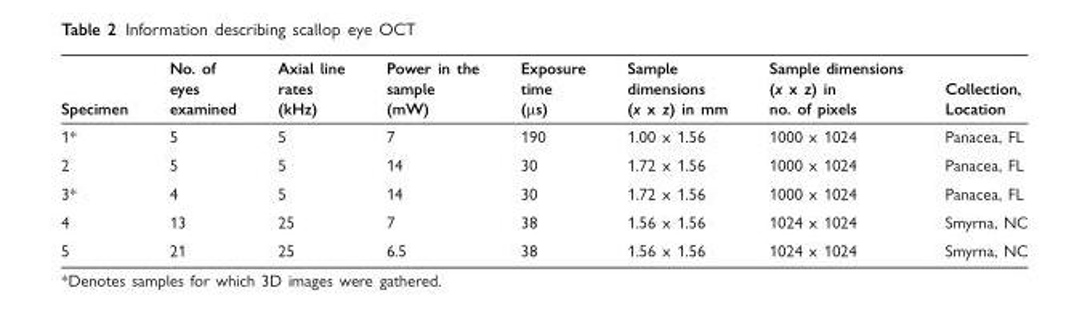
<table><thead><tr><td>Specimen</td><td>No. of eyes examined</td><td>Axial line rates (kHz)</td><td>Power in the sample (mW)</td><td>Exposure time (µs)</td><td>Sample dimensions (x x z) in mm</td><td>Sample dimensions (x x z) in no. of pixels</td><td>Collection, Location</td></tr></thead><tbody><tr><td>1*</td><td>5</td><td>5</td><td>7</td><td>190</td><td>1.00 x 1.56</td><td>1000 x 1024</td><td>Panacea, FL</td></tr><tr><td>2</td><td>5</td><td>5</td><td>14</td><td>30</td><td>1.72 x 1.56</td><td>1000 x 1024</td><td>Panacea, FL</td></tr><tr><td>3*</td><td>4</td><td>5</td><td>14</td><td>30</td><td>1.72 x 1.56</td><td>1000 x 1024</td><td>Panacea, FL</td></tr><tr><td>4</td><td>13</td><td>25</td><td>7</td><td>38</td><td>1.56 x 1.56</td><td>1024 x 1024</td><td>Smyrna, NC</td></tr><tr><td>5</td><td>21</td><td>25</td><td>6.5</td><td>38</td><td>1.56 x 1.56</td><td>1024 x 1024</td><td>Smyrna, NC</td></tr></tbody></table>